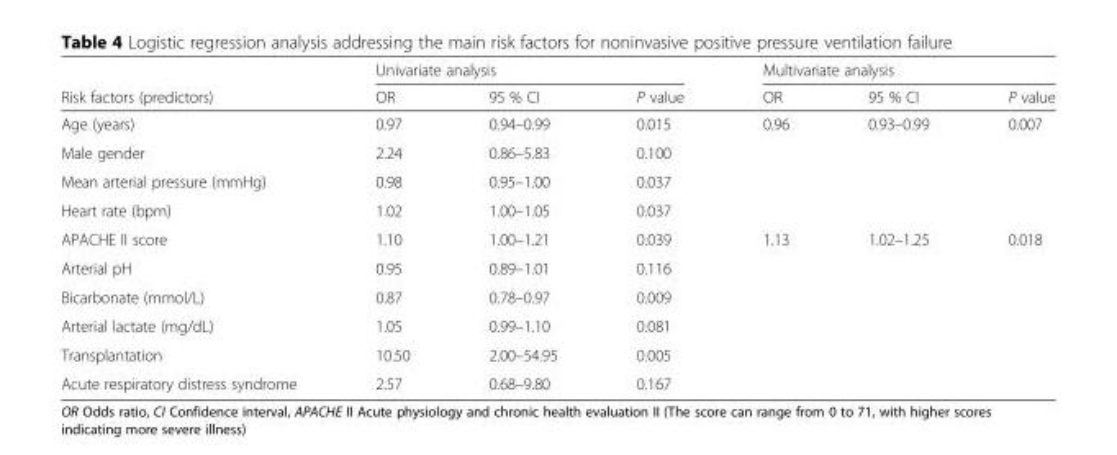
<table><thead><tr><td rowspan="2">Risk factors (predictors)</td><td colspan="3">Univariate analysis</td><td colspan="3">Multivariate analysis</td></tr><tr><td>OR</td><td>95 % CI</td><td>P value</td><td>OR</td><td>95 % CI</td><td>P value</td></tr></thead><tbody><tr><td>Age (years)</td><td>0.97</td><td>0.94–0.99</td><td>0.015</td><td>0.96</td><td>0.93–0.99</td><td>0.007</td></tr><tr><td>Male gender</td><td>2.24</td><td>0.86–5.83</td><td>0.100</td><td rowspan="3" colspan="3"></td></tr><tr><td>Mean arterial pressure (mmHg)</td><td>0.98</td><td>0.95–1.00</td><td>0.037</td></tr><tr><td>Heart rate (bpm)</td><td>1.02</td><td>1.00–1.05</td><td>0.037</td></tr><tr><td>APACHE II score</td><td>1.10</td><td>1.00–1.21</td><td>0.039</td><td>1.13</td><td>1.02–1.25</td><td>0.018</td></tr><tr><td>Arterial pH</td><td>0.95</td><td>0.89–1.01</td><td>0.116</td><td rowspan="5" colspan="3"></td></tr><tr><td>Bicarbonate (mmol/L)</td><td>0.87</td><td>0.78–0.97</td><td>0.009</td></tr><tr><td>Arterial lactate (mg/dL)</td><td>1.05</td><td>0.99–1.10</td><td>0.081</td></tr><tr><td>Transplantation</td><td>10.50</td><td>2.00–54.95</td><td>0.005</td></tr><tr><td>Acute respiratory distress syndrome</td><td>2.57</td><td>0.68–9.80</td><td>0.167</td></tr></tbody></table>